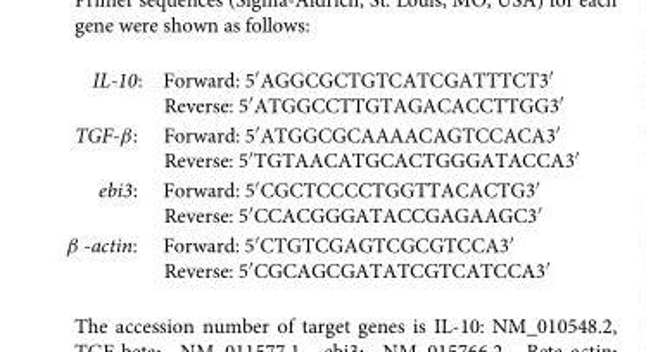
<table><tbody><tr><td>IL-10:</td><td>Forward: 5′AGGCGCTGTCATCGATTTCT3′ Reverse: 5′ATGGCCTTGTAGACACCTTGG3′</td></tr><tr><td>TGF-β:</td><td>Forward: 5′ATGGCGCAAAACAGTCCACA3′ Reverse: 5′TGTAACATGCACTGGGATACCA3′</td></tr><tr><td>ebi3:</td><td>Forward: 5′CGCTCCCCTGGTTACACTG3′ Reverse: 5′CCACGGGATACCGAGAAGC3′</td></tr><tr><td>β -actin:</td><td>Forward: 5′CTGTCGAGTCGCGTCCA3′ Reverse: 5′CGCAGCGATATCGTCATCCA3′</td></tr></tbody></table>